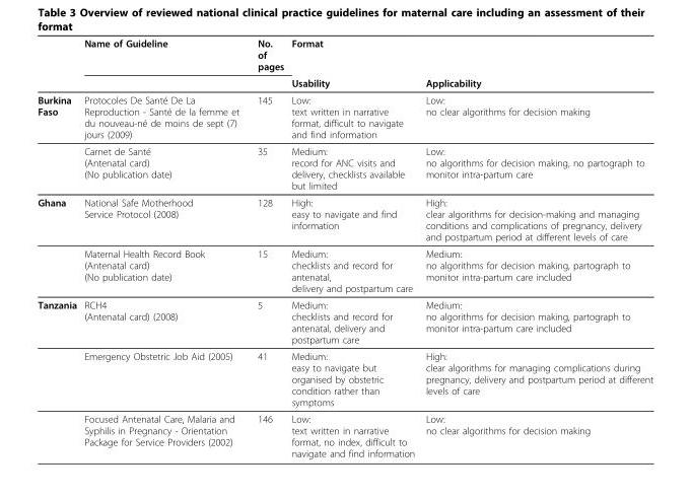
<table><thead><tr><td rowspan="2"></td><td rowspan="2">Name of Guideline</td><td rowspan="2">No. of pages</td><td colspan="2">Format</td></tr><tr><td>Usability</td><td>Applicability</td></tr></thead><tbody><tr><td rowspan="2">Burkina Faso</td><td>Protocoles De Santé De La Reproduction - Santé de la femme et du nouveau-né de moins de sept (7) jours (2009)</td><td>145</td><td>Low: text written in narrative format, difficult to navigate and find information</td><td>Low: no clear algorithms for decision making</td></tr><tr><td>Carnet de Santé (Antenatal card) (No publication date)</td><td>35</td><td>Medium: record for ANC visits and delivery, checklists available but limited</td><td>Low: no algorithms for decision making, no partograph to monitor intra-partum care</td></tr><tr><td rowspan="2">Ghana</td><td>National Safe Motherhood Service Protocol (2008)</td><td>128</td><td>High: easy to navigate and find information</td><td>High: clear algorithms for decision-making and managing conditions and complications of pregnancy, delivery and postpartum period at different levels of care</td></tr><tr><td>Maternal Health Record Book (Antenatal card) (No publication date)</td><td>15</td><td>Medium: checklists and record for antenatal, delivery and postpartum care</td><td>Medium: no algorithms for decision making, partograph to monitor intra-partum care included</td></tr><tr><td rowspan="3">Tanzania</td><td>RCH4 (Antenatal card) (2008)</td><td>5</td><td>Medium: checklists and record for antenatal, delivery and postpartum care</td><td>Medium: no algorithms for decision making, partograph to monitor intra-partum care included</td></tr><tr><td>Emergency Obstetric Job Aid (2005)</td><td>41</td><td>Medium: easy to navigate but organised by obstetric condition rather than symptoms</td><td>High: clear algorithms for managing complications during pregnancy, delivery and postpartum period at different levels of care</td></tr><tr><td>Focused Antenatal Care, Malaria and Syphilis in Pregnancy - Orientation Package for Service Providers (2002)</td><td>146</td><td>Low: text written in narrative format, no index, difficult to navigate and find information</td><td>Low: no clear algorithms for decision making</td></tr></tbody></table>